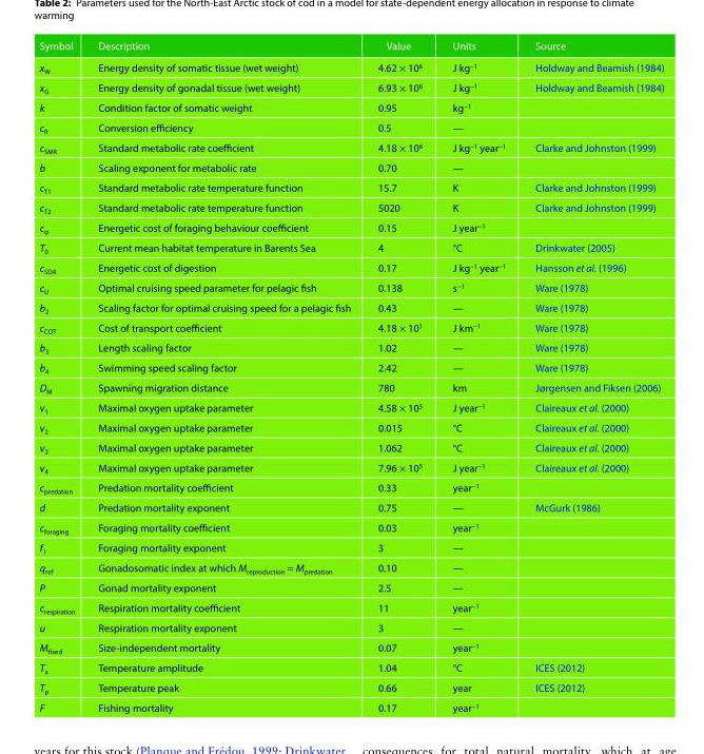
<table><thead><tr><td>Symbol</td><td>Description</td><td>Value</td><td>Units</td><td>Source</td></tr></thead><tbody><tr><td>x<sub>W</sub></td><td>Energy density of somatic tissue (wet weight)</td><td>4.62 × 10<sup>6</sup></td><td>J kg<sup>−1</sup></td><td>Holdway and Beamish (1984)</td></tr><tr><td>x<sub>G</sub></td><td>Energy density of gonadal tissue (wet weight)</td><td>6.93 × 10<sup>6</sup></td><td>J kg<sup>−1</sup></td><td>Holdway and Beamish (1984)</td></tr><tr><td>k</td><td>Condition factor of somatic weight</td><td>0.95</td><td>kg<sup>−1</sup></td><td></td></tr><tr><td>c<sub>R</sub></td><td>Conversion efficiency</td><td>0.5</td><td>—</td><td></td></tr><tr><td>c<sub>SMR</sub></td><td>Standard metabolic rate coefficient</td><td>4.18 × 10<sup>6</sup></td><td>J kg<sup>−1</sup> year<sup>−1</sup></td><td>Clarke and Johnston (1999)</td></tr><tr><td>b</td><td>Scaling exponent for metabolic rate</td><td>0.70</td><td>—</td><td></td></tr><tr><td>c<sub>T1</sub></td><td>Standard metabolic rate temperature function</td><td>15.7</td><td>K</td><td>Clarke and Johnston (1999)</td></tr><tr><td>c<sub>T2</sub></td><td>Standard metabolic rate temperature function</td><td>5020</td><td>K</td><td>Clarke and Johnston (1999)</td></tr><tr><td>c<sub>φ</sub></td><td>Energetic cost of foraging behaviour coefficient</td><td>0.15</td><td>J year<sup>−1</sup></td><td></td></tr><tr><td>T<sub>0</sub></td><td>Current mean habitat temperature in Barents Sea</td><td>4</td><td>°C</td><td>Drinkwater (2005)</td></tr><tr><td>c<sub>SDA</sub></td><td>Energetic cost of digestion</td><td>0.17</td><td>J kg<sup>−1</sup> year<sup>−1</sup></td><td>Hansson et al. (1996)</td></tr><tr><td>c<sub>U</sub></td><td>Optimal cruising speed parameter for pelagic fish</td><td>0.138</td><td>s<sup>−1</sup></td><td>Ware (1978)</td></tr><tr><td>b<sub>2</sub></td><td>Scaling factor for optimal cruising speed for a pelagic fish</td><td>0.43</td><td>—</td><td>Ware (1978)</td></tr><tr><td>c<sub>COT</sub></td><td>Cost of transport coefficient</td><td>4.18 × 10<sup>1</sup></td><td>J km<sup>−1</sup></td><td>Ware (1978)</td></tr><tr><td>b<sub>3</sub></td><td>Length scaling factor</td><td>1.02</td><td>—</td><td>Ware (1978)</td></tr><tr><td>b<sub>4</sub></td><td>Swimming speed scaling factor</td><td>2.42</td><td>—</td><td>Ware (1978)</td></tr><tr><td>D<sub>M</sub></td><td>Spawning migration distance</td><td>780</td><td>km</td><td>Jørgensen and Fiksen (2006)</td></tr><tr><td>v<sub>1</sub></td><td>Maximal oxygen uptake parameter</td><td>4.58 × 10<sup>5</sup></td><td>J year<sup>−1</sup></td><td>Claireaux et al. (2000)</td></tr><tr><td>v<sub>2</sub></td><td>Maximal oxygen uptake parameter</td><td>0.015</td><td>°C</td><td>Claireaux et al. (2000)</td></tr><tr><td>v<sub>3</sub></td><td>Maximal oxygen uptake parameter</td><td>1.062</td><td>°C</td><td>Claireaux et al. (2000)</td></tr><tr><td>v<sub>4</sub></td><td>Maximal oxygen uptake parameter</td><td>7.96 × 10<sup>5</sup></td><td>J year<sup>−1</sup></td><td>Claireaux et al. (2000)</td></tr><tr><td>c<sub>predation</sub></td><td>Predation mortality coefficient</td><td>0.33</td><td>year<sup>−1</sup></td><td></td></tr><tr><td>d</td><td>Predation mortality exponent</td><td>0.75</td><td>—</td><td>McGurk (1986)</td></tr><tr><td>c<sub>foraging</sub></td><td>Foraging mortality coefficient</td><td>0.03</td><td>year<sup>−1</sup></td><td></td></tr><tr><td>f<sub>1</sub></td><td>Foraging mortality exponent</td><td>3</td><td>—</td><td></td></tr><tr><td>q<sub>ref</sub></td><td>Gonadosomatic index at which M<sub>reproduction</sub> = M<sub>predation</sub></td><td>0.10</td><td>—</td><td></td></tr><tr><td>P</td><td>Gonad mortality exponent</td><td>2.5</td><td>—</td><td></td></tr><tr><td>c<sub>respiration</sub></td><td>Respiration mortality coefficient</td><td>11</td><td>year<sup>−1</sup></td><td></td></tr><tr><td>u</td><td>Respiration mortality exponent</td><td>3</td><td>—</td><td></td></tr><tr><td>M<sub>fixed</sub></td><td>Size-independent mortality</td><td>0.07</td><td>year<sup>−1</sup></td><td></td></tr><tr><td>T<sub>a</sub></td><td>Temperature amplitude</td><td>1.04</td><td>°C</td><td>ICES (2012)</td></tr><tr><td>T<sub>p</sub></td><td>Temperature peak</td><td>0.66</td><td>year</td><td>ICES (2012)</td></tr><tr><td>F</td><td>Fishing mortality</td><td>0.17</td><td>year<sup>−1</sup></td><td></td></tr></tbody></table>